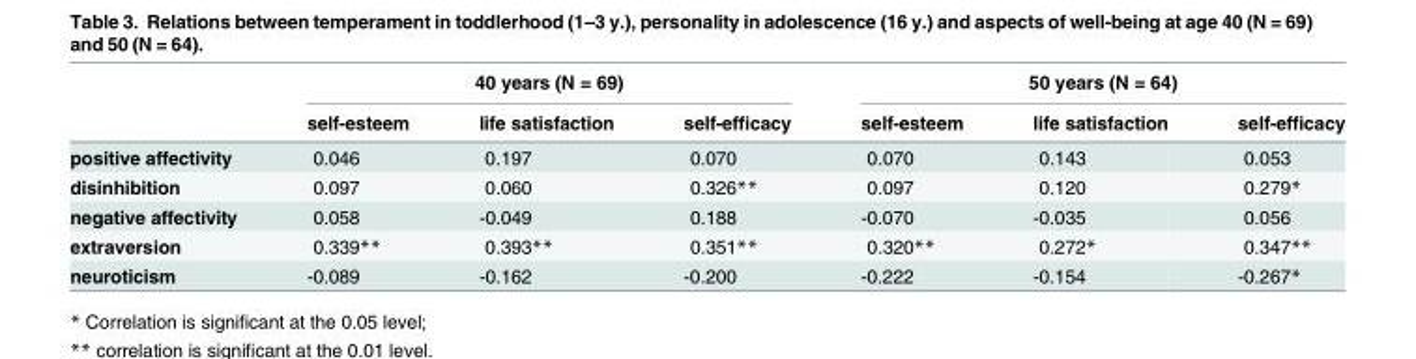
<table><thead><tr><td rowspan="2"></td><td colspan="3">40 years (N = 69)</td><td colspan="3">50 years (N = 64)</td></tr><tr><td>self-esteem</td><td>life satisfaction</td><td>self-efficacy</td><td>self-esteem</td><td>life satisfaction</td><td>self-efficacy</td></tr></thead><tbody><tr><td>positive affectivity</td><td>0.046</td><td>0.197</td><td>0.070</td><td>0.070</td><td>0.143</td><td>0.053</td></tr><tr><td>disinhibition</td><td>0.097</td><td>0.060</td><td>0.326**</td><td>0.097</td><td>0.120</td><td>0.279*</td></tr><tr><td>negative affectivity</td><td>0.058</td><td>-0.049</td><td>0.188</td><td>-0.070</td><td>-0.035</td><td>0.056</td></tr><tr><td>extraversion</td><td>0.339**</td><td>0.393**</td><td>0.351**</td><td>0.320**</td><td>0.272*</td><td>0.347**</td></tr><tr><td>neuroticism</td><td>-0.089</td><td>-0.162</td><td>-0.200</td><td>-0.222</td><td>-0.154</td><td>-0.267*</td></tr></tbody></table>